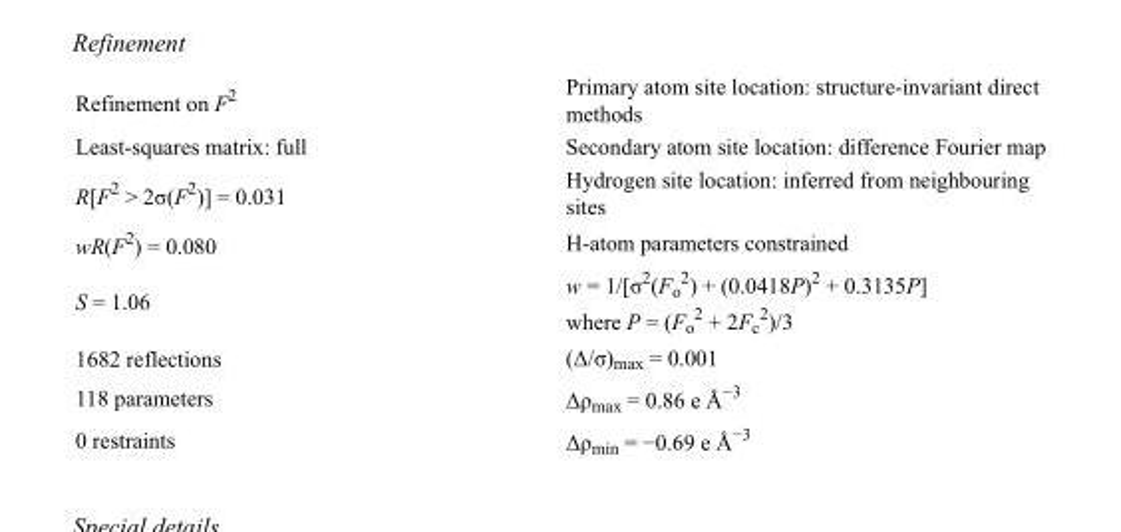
<table><tbody><tr><td>Refinement on F<sup>2</sup></td><td>Primary atom site location: structure-invariant direct methods</td></tr><tr><td>Least-squares matrix: full</td><td>Secondary atom site location: difference Fourier map</td></tr><tr><td>R[F<sup>2</sup> &gt; 2σ(F<sup>2</sup>)] = 0.031</td><td>Hydrogen site location: inferred from neighbouring sites</td></tr><tr><td>wR(F<sup>2</sup>) = 0.080</td><td>H-atom parameters constrained</td></tr><tr><td>S = 1.06</td><td>w = 1/[σ<sup>2</sup>(F<sub>o</sub> <sup>2</sup>) + (0.0418P)<sup>2</sup> + 0.3135P] where P = (F<sub>o</sub> <sup>2</sup> + 2F<sub>c</sub> <sup>2</sup>)/3</td></tr><tr><td>1682 reflections</td><td>(Δ/σ)<sub>max</sub> = 0.001</td></tr><tr><td>118 parameters</td><td>Δρ<sub>max</sub> = 0.86 e Å<sup>−3</sup></td></tr><tr><td>0 restraints</td><td>Δρ<sub>min</sub> = −0.69 e Å<sup>−3</sup></td></tr></tbody></table>